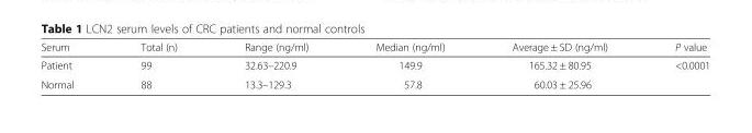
<table><thead><tr><td>Serum</td><td>Total (n)</td><td>Range (ng/ml)</td><td>Median (ng/ml)</td><td>Average ± SD (ng/ml)</td><td>P value</td></tr></thead><tbody><tr><td>Patient</td><td>99</td><td>32.63–220.9</td><td>149.9</td><td>165.32 ± 80.95</td><td rowspan="2">&lt;0.0001</td></tr><tr><td>Normal</td><td>88</td><td>13.3–129.3</td><td>57.8</td><td>60.03 ± 25.96</td></tr></tbody></table>